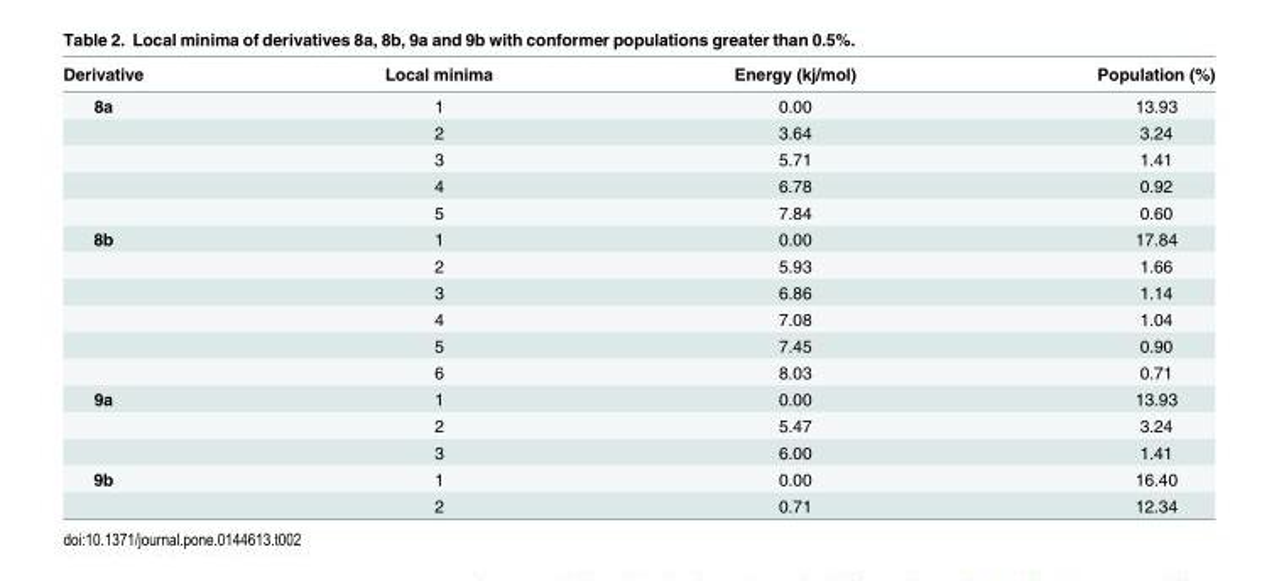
<table><thead><tr><td>Derivative</td><td>Local minima</td><td>Energy (kj/mol)</td><td>Population (%)</td></tr></thead><tbody><tr><td rowspan="5">8a</td><td>1</td><td>0.00</td><td>13.93</td></tr><tr><td>2</td><td>3.64</td><td>3.24</td></tr><tr><td>3</td><td>5.71</td><td>1.41</td></tr><tr><td>4</td><td>6.78</td><td>0.92</td></tr><tr><td>5</td><td>7.84</td><td>0.60</td></tr><tr><td rowspan="6">8b</td><td>1</td><td>0.00</td><td>17.84</td></tr><tr><td>2</td><td>5.93</td><td>1.66</td></tr><tr><td>3</td><td>6.86</td><td>1.14</td></tr><tr><td>4</td><td>7.08</td><td>1.04</td></tr><tr><td>5</td><td>7.45</td><td>0.90</td></tr><tr><td>6</td><td>8.03</td><td>0.71</td></tr><tr><td rowspan="3">9a</td><td>1</td><td>0.00</td><td>13.93</td></tr><tr><td>2</td><td>5.47</td><td>3.24</td></tr><tr><td>3</td><td>6.00</td><td>1.41</td></tr><tr><td rowspan="2">9b</td><td>1</td><td>0.00</td><td>16.40</td></tr><tr><td>2</td><td>0.71</td><td>12.34</td></tr></tbody></table>